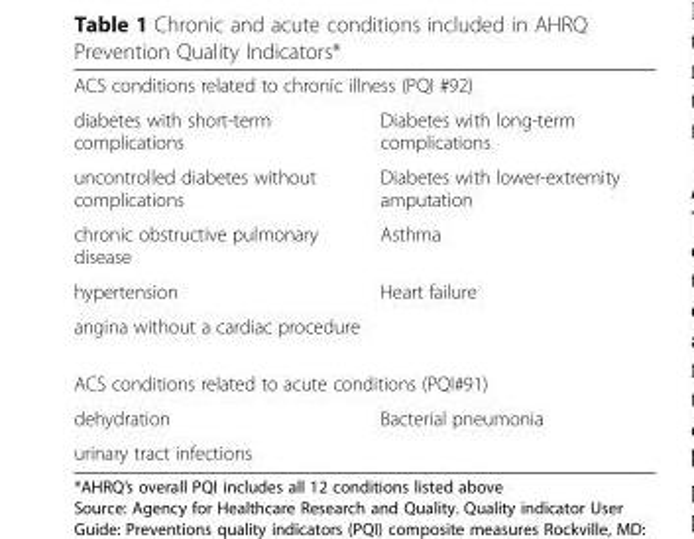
<table><tbody><tr><td colspan="2">ACS conditions related to chronic illness (PQI #92)</td></tr><tr><td>diabetes with short-term complications</td><td>Diabetes with long-term complications</td></tr><tr><td>uncontrolled diabetes without complications</td><td>Diabetes with lower-extremity amputation</td></tr><tr><td>chronic obstructive pulmonary disease</td><td>Asthma</td></tr><tr><td>hypertension</td><td>Heart failure</td></tr><tr><td colspan="2">angina without a cardiac procedure</td></tr><tr><td colspan="2">ACS conditions related to acute conditions (PQI#91)</td></tr><tr><td>dehydration</td><td>Bacterial pneumonia</td></tr><tr><td>urinary tract infections</td><td></td></tr></tbody></table>